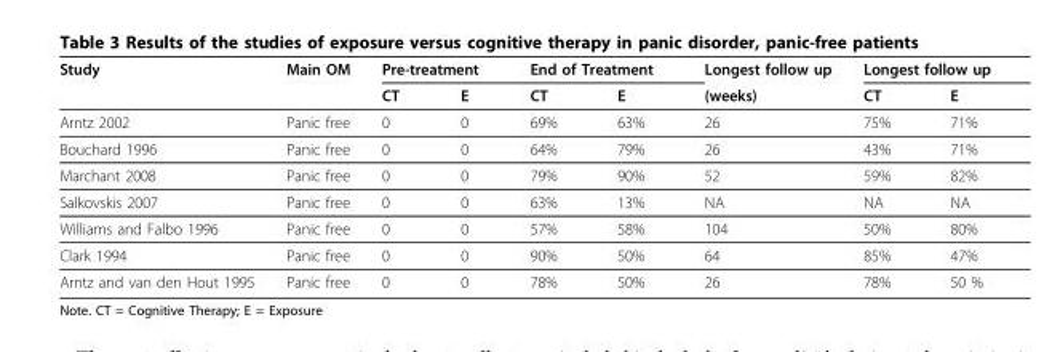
<table><thead><tr><td rowspan="2">Study</td><td rowspan="2">Main OM</td><td colspan="2">Pre-treatment</td><td colspan="2">End of Treatment</td><td rowspan="2">Longest follow up (weeks)</td><td colspan="2">Longest follow up</td></tr><tr><td>CT</td><td>E</td><td>CT</td><td>E</td><td>CT</td><td>E</td></tr></thead><tbody><tr><td>Arntz 2002</td><td>Panic free</td><td>0</td><td>0</td><td>69%</td><td>63%</td><td>26</td><td>75%</td><td>71%</td></tr><tr><td>Bouchard 1996</td><td>Panic free</td><td>0</td><td>0</td><td>64%</td><td>79%</td><td>26</td><td>43%</td><td>71%</td></tr><tr><td>Marchant 2008</td><td>Panic free</td><td>0</td><td>0</td><td>79%</td><td>90%</td><td>52</td><td>59%</td><td>82%</td></tr><tr><td>Salkovskis 2007</td><td>Panic free</td><td>0</td><td>0</td><td>63%</td><td>13%</td><td>NA</td><td>NA</td><td>NA</td></tr><tr><td>Williams and Falbo 1996</td><td>Panic free</td><td>0</td><td>0</td><td>57%</td><td>58%</td><td>104</td><td>50%</td><td>80%</td></tr><tr><td>Clark 1994</td><td>Panic free</td><td>0</td><td>0</td><td>90%</td><td>50%</td><td>64</td><td>85%</td><td>47%</td></tr><tr><td>Arntz and van den Hout 1995</td><td>Panic free</td><td>0</td><td>0</td><td>78%</td><td>50%</td><td>26</td><td>78%</td><td>50 %</td></tr></tbody></table>